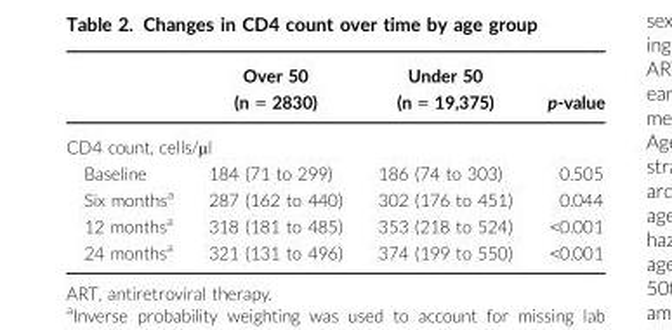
<table><thead><tr><td></td><td>Over 50 (n = 2830)</td><td>Under 50 (n = 19,375)</td><td>p-value</td></tr></thead><tbody><tr><td colspan="4">CD4 count, cells/μl</td></tr><tr><td>Baseline</td><td>184 (71 to 299)</td><td>186 (74 to 303)</td><td>0.505</td></tr><tr><td>Six months<sup>a</sup></td><td>287 (162 to 440)</td><td>302 (176 to 451)</td><td>0.044</td></tr><tr><td>12 months<sup>a</sup></td><td>318 (181 to 485)</td><td>353 (218 to 524)</td><td>&lt;0.001</td></tr><tr><td>24 months<sup>a</sup></td><td>321 (131 to 496)</td><td>374 (199 to 550)</td><td>&lt;0.001</td></tr></tbody></table>